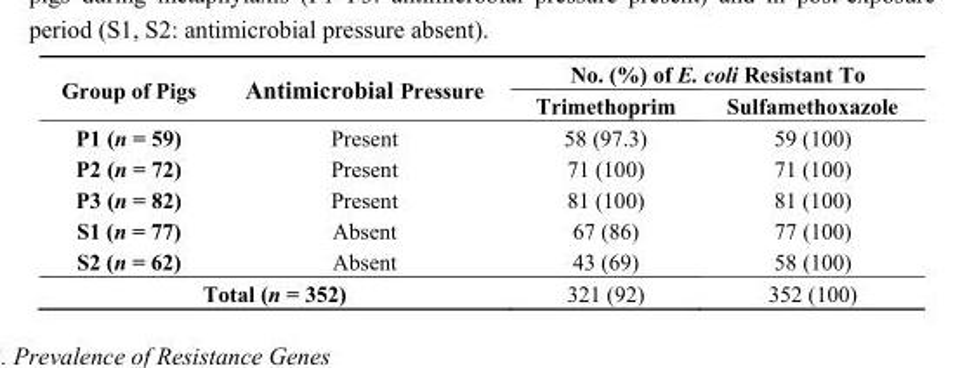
<table><thead><tr><td rowspan="2">Group of Pigs</td><td rowspan="2">Antimicrobial Pressure</td><td colspan="2">No. (%) of E. coli Resistant To</td></tr><tr><td>Trimethoprim</td><td>Sulfamethoxazole</td></tr></thead><tbody><tr><td>P1 (n = 59)</td><td>Present</td><td>58 (97.3)</td><td>59 (100)</td></tr><tr><td>P2 (n = 72)</td><td>Present</td><td>71 (100)</td><td>71 (100)</td></tr><tr><td>P3 (n = 82)</td><td>Present</td><td>81 (100)</td><td>81 (100)</td></tr><tr><td>S1 (n = 77)</td><td>Absent</td><td>67 (86)</td><td>77 (100)</td></tr><tr><td>S2 (n = 62)</td><td>Absent</td><td>43 (69)</td><td>58 (100)</td></tr><tr><td colspan="2">Total (n = 352)</td><td>321 (92)</td><td>352 (100)</td></tr></tbody></table>